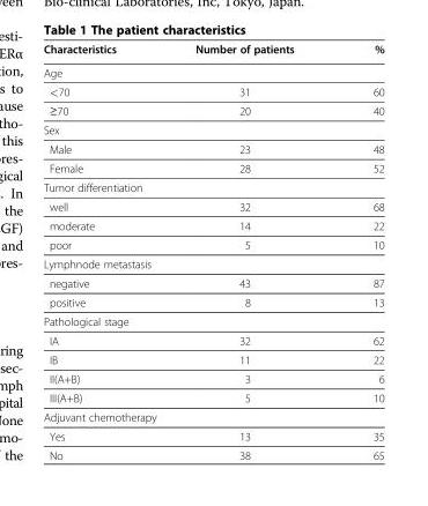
<table><thead><tr><td>Characteristics</td><td>Number of patients</td><td>%</td></tr></thead><tbody><tr><td colspan="3">Age</td></tr><tr><td>&lt;70</td><td>31</td><td>60</td></tr><tr><td>≥70</td><td>20</td><td>40</td></tr><tr><td colspan="3">Sex</td></tr><tr><td>Male</td><td>23</td><td>48</td></tr><tr><td>Female</td><td>28</td><td>52</td></tr><tr><td colspan="3">Tumor differentiation</td></tr><tr><td>well</td><td>32</td><td>68</td></tr><tr><td>moderate</td><td>14</td><td>22</td></tr><tr><td>poor</td><td>5</td><td>10</td></tr><tr><td colspan="3">Lymphnode metastasis</td></tr><tr><td>negative</td><td>43</td><td>87</td></tr><tr><td>positive</td><td>8</td><td>13</td></tr><tr><td colspan="3">Pathological stage</td></tr><tr><td>IA</td><td>32</td><td>62</td></tr><tr><td>IB</td><td>11</td><td>22</td></tr><tr><td>II(A+B)</td><td>3</td><td>6</td></tr><tr><td>III(A+B)</td><td>5</td><td>10</td></tr><tr><td colspan="3">Adjuvant chemotherapy</td></tr><tr><td>Yes</td><td>13</td><td>35</td></tr><tr><td>No</td><td>38</td><td>65</td></tr></tbody></table>